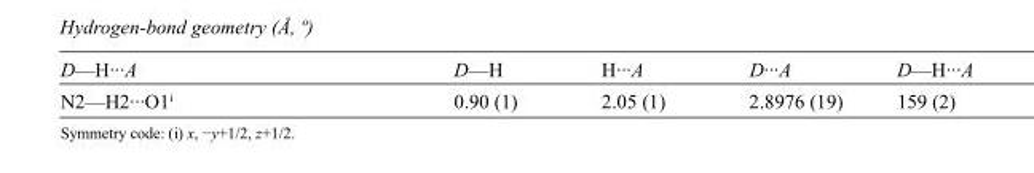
<table><tbody><tr><td>D—H···A</td><td>D—H</td><td>H···A</td><td>D···A</td><td>D—H···A</td></tr><tr><td>N2—H2···O1<sup>i</sup></td><td>0.90 (1)</td><td>2.05 (1)</td><td>2.8976 (19)</td><td>159 (2)</td></tr></tbody></table>